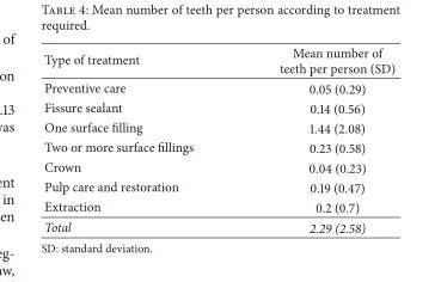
<table><thead><tr><td>Type of treatment</td><td>Mean number of teeth per person (SD)</td></tr></thead><tbody><tr><td>Preventive care</td><td>0.05 (0.29)</td></tr><tr><td>Fissure sealant</td><td>0.14 (0.56)</td></tr><tr><td>One surface filling</td><td>1.44 (2.08)</td></tr><tr><td>Two or more surface fillings</td><td>0.23 (0.58)</td></tr><tr><td>Crown</td><td>0.04 (0.23)</td></tr><tr><td>Pulp care and restoration</td><td>0.19 (0.47)</td></tr><tr><td>Extraction</td><td>0.2 (0.7)</td></tr><tr><td>Total</td><td>2.29 (2.58)</td></tr></tbody></table>